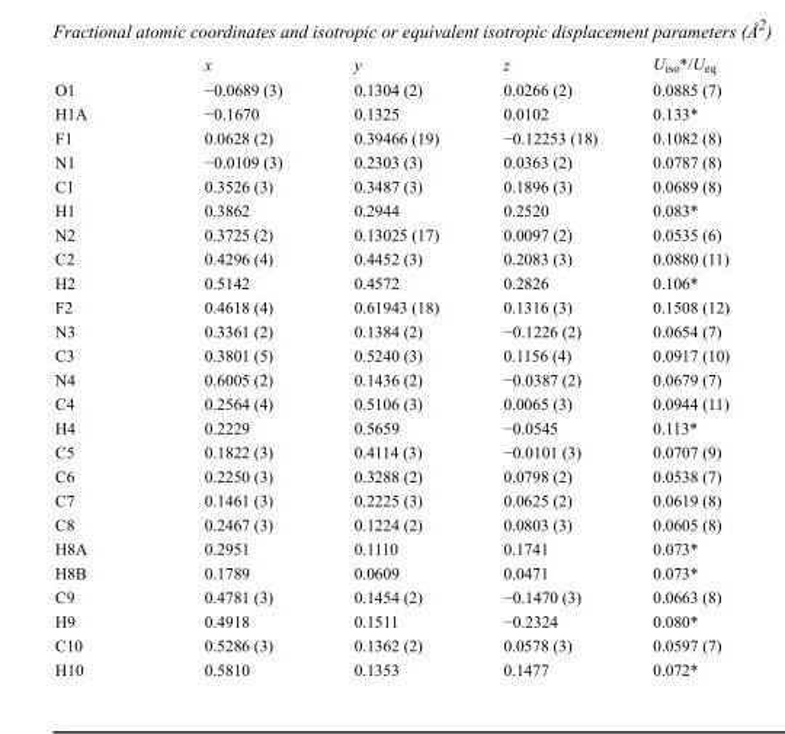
<table><thead><tr><td></td><td>x</td><td>y</td><td>z</td><td>U<sub>iso</sub>*/U<sub>eq</sub></td></tr></thead><tbody><tr><td>O1</td><td>−0.0689 (3)</td><td>0.1304 (2)</td><td>0.0266 (2)</td><td>0.0885 (7)</td></tr><tr><td>H1A</td><td>−0.1670</td><td>0.1325</td><td>0.0102</td><td>0.133*</td></tr><tr><td>F1</td><td>0.0628 (2)</td><td>0.39466 (19)</td><td>−0.12253 (18)</td><td>0.1082 (8)</td></tr><tr><td>N1</td><td>−0.0109 (3)</td><td>0.2303 (3)</td><td>0.0363 (2)</td><td>0.0787 (8)</td></tr><tr><td>C1</td><td>0.3526 (3)</td><td>0.3487 (3)</td><td>0.1896 (3)</td><td>0.0689 (8)</td></tr><tr><td>H1</td><td>0.3862</td><td>0.2944</td><td>0.2520</td><td>0.083*</td></tr><tr><td>N2</td><td>0.3725 (2)</td><td>0.13025 (17)</td><td>0.0097 (2)</td><td>0.0535 (6)</td></tr><tr><td>C2</td><td>0.4296 (4)</td><td>0.4452 (3)</td><td>0.2083 (3)</td><td>0.0880 (11)</td></tr><tr><td>H2</td><td>0.5142</td><td>0.4572</td><td>0.2826</td><td>0.106*</td></tr><tr><td>F2</td><td>0.4618 (4)</td><td>0.61943 (18)</td><td>0.1316 (3)</td><td>0.1508 (12)</td></tr><tr><td>N3</td><td>0.3361 (2)</td><td>0.1384 (2)</td><td>−0.1226 (2)</td><td>0.0654 (7)</td></tr><tr><td>C3</td><td>0.3801 (5)</td><td>0.5240 (3)</td><td>0.1156 (4)</td><td>0.0917 (10)</td></tr><tr><td>N4</td><td>0.6005 (2)</td><td>0.1436 (2)</td><td>−0.0387 (2)</td><td>0.0679 (7)</td></tr><tr><td>C4</td><td>0.2564 (4)</td><td>0.5106 (3)</td><td>0.0065 (3)</td><td>0.0944 (11)</td></tr><tr><td>H4</td><td>0.2229</td><td>0.5659</td><td>−0.0545</td><td>0.113*</td></tr><tr><td>C5</td><td>0.1822 (3)</td><td>0.4114 (3)</td><td>−0.0101 (3)</td><td>0.0707 (9)</td></tr><tr><td>C6</td><td>0.2250 (3)</td><td>0.3288 (2)</td><td>0.0798 (2)</td><td>0.0538 (7)</td></tr><tr><td>C7</td><td>0.1461 (3)</td><td>0.2225 (3)</td><td>0.0625 (2)</td><td>0.0619 (8)</td></tr><tr><td>C8</td><td>0.2467 (3)</td><td>0.1224 (2)</td><td>0.0803 (3)</td><td>0.0605 (8)</td></tr><tr><td>H8A</td><td>0.2951</td><td>0.1110</td><td>0.1741</td><td>0.073*</td></tr><tr><td>H8B</td><td>0.1789</td><td>0.0609</td><td>0.0471</td><td>0.073*</td></tr><tr><td>C9</td><td>0.4781 (3)</td><td>0.1454 (2)</td><td>−0.1470 (3)</td><td>0.0663 (8)</td></tr><tr><td>H9</td><td>0.4918</td><td>0.1511</td><td>−0.2324</td><td>0.080*</td></tr><tr><td>C10</td><td>0.5286 (3)</td><td>0.1362 (2)</td><td>0.0578 (3)</td><td>0.0597 (7)</td></tr><tr><td>H10</td><td>0.5810</td><td>0.1353</td><td>0.1477</td><td>0.072*</td></tr></tbody></table>